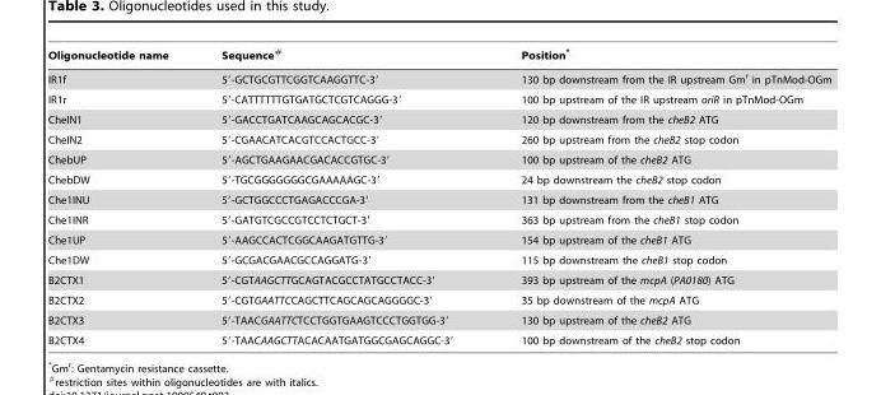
<table><thead><tr><td>Oligonucleotide name</td><td>Sequence#</td><td>Position*</td></tr></thead><tbody><tr><td>IR1f</td><td>5′-GCTGCGTTCGGTCAAGGTTC-3′</td><td>130 bp downstream from the IR upstream Gm<sup>r</sup> in pTnMod-OGm</td></tr><tr><td>IR1r</td><td>5′-CATTTTTTGTGATGCTCGTCAGGG-3′</td><td>100 bp upstream of the IR upstream oriR in pTnMod-OGm</td></tr><tr><td>CheIN1</td><td>5′-GACCTGATCAAGCAGCACGC-3′</td><td>120 bp downstream from the cheB2 ATG</td></tr><tr><td>CheIN2</td><td>5′-CGAACATCACGTCCACTGCC-3′</td><td>260 bp upstream from the cheB2 stop codon</td></tr><tr><td>ChebUP</td><td>5′-AGCTGAAGAACGACACCGTGC-3′</td><td>100 bp upstream of the cheB2 ATG</td></tr><tr><td>ChebDW</td><td>5′-TGCGGGGGGGCGAAAAAGC-3′</td><td>24 bp downstream the cheB2 stop codon</td></tr><tr><td>Che1INU</td><td>5′-GCTGGCCCTGAGACCCGA-3′</td><td>131 bp downstream from the cheB1 ATG</td></tr><tr><td>Che1INR</td><td>5′-GATGTCGCCGTCCTCTGCT-3′</td><td>363 bp upstream from the cheB1 stop codon</td></tr><tr><td>Che1UP</td><td>5′-AAGCCACTCGGCAAGATGTTG-3′</td><td>154 bp upstream of the cheB1 ATG</td></tr><tr><td>Che1DW</td><td>5′-GCGACGAACGCCAGGATG-3′</td><td>115 bp downstream the cheB1 stop codon</td></tr><tr><td>B2CTX1</td><td>5′-CGTAAGCTTGCAGTACGCCTATGCCTACC-3′</td><td>393 bp upstream of the mcpA (PA0180) ATG</td></tr><tr><td>B2CTX2</td><td>5′-CGTGAATTCCAGCTTCAGCAGCAGGGGC-3′</td><td>35 bp downstream of the mcpA ATG</td></tr><tr><td>B2CTX3</td><td>5′-TAACGAATTCTCCTGGTGAAGTCCCTGGTGG-3′</td><td>130 bp upstream of the cheB2 ATG</td></tr><tr><td>B2CTX4</td><td>5′-TAACAAGCTTACACAATGATGGCGAGCAGGC-3′</td><td>100 bp downstream of the cheB2 stop codon</td></tr></tbody></table>